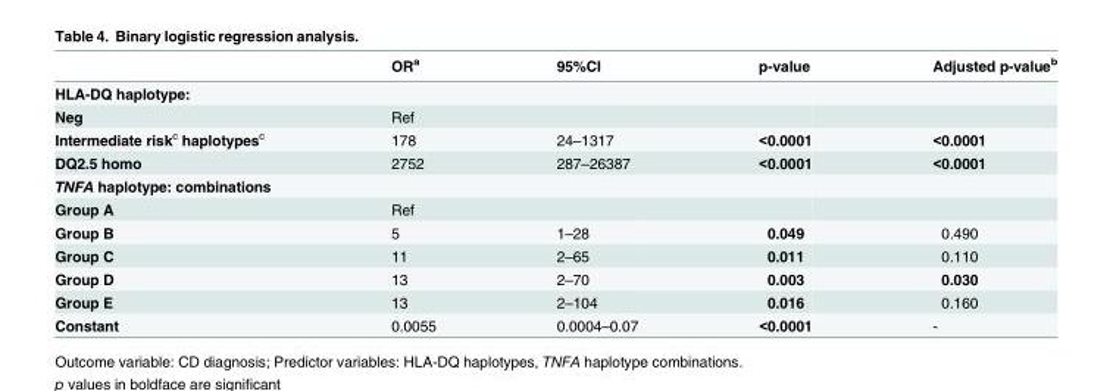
<table><thead><tr><td></td><td>OR<sup>a</sup></td><td>95%CI</td><td>p-value</td><td>Adjusted p-value<sup>b</sup></td></tr></thead><tbody><tr><td colspan="5">HLA-DQ haplotype:</td></tr><tr><td>Neg</td><td>Ref</td><td></td><td></td><td></td></tr><tr><td>Intermediate risk<sup>c</sup> haplotypes<sup>c</sup></td><td>178</td><td>24–1317</td><td>&lt;0.0001</td><td>&lt;0.0001</td></tr><tr><td>DQ2.5 homo</td><td>2752</td><td>287–26387</td><td>&lt;0.0001</td><td>&lt;0.0001</td></tr><tr><td colspan="5">TNFA haplotype: combinations</td></tr><tr><td>Group A</td><td>Ref</td><td></td><td></td><td></td></tr><tr><td>Group B</td><td>5</td><td>1–28</td><td>0.049</td><td>0.490</td></tr><tr><td>Group C</td><td>11</td><td>2–65</td><td>0.011</td><td>0.110</td></tr><tr><td>Group D</td><td>13</td><td>2–70</td><td>0.003</td><td>0.030</td></tr><tr><td>Group E</td><td>13</td><td>2–104</td><td>0.016</td><td>0.160</td></tr><tr><td>Constant</td><td>0.0055</td><td>0.0004–0.07</td><td>&lt;0.0001</td><td>-</td></tr></tbody></table>